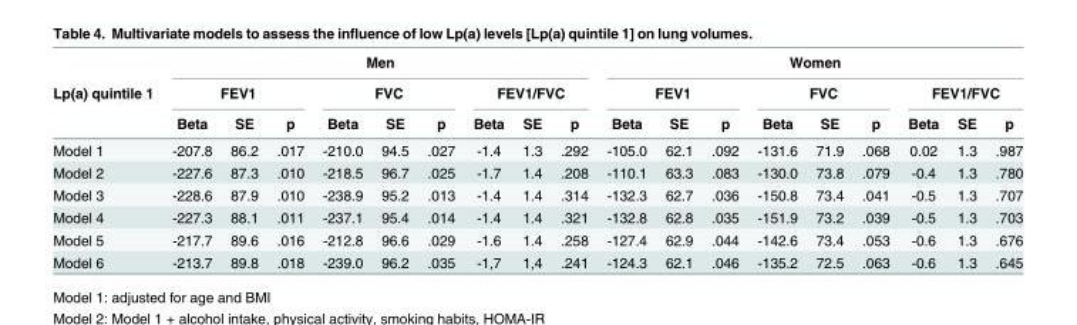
<table><thead><tr><td rowspan="3">Lp(a) quintile 1</td><td colspan="9">Men</td><td colspan="9">Women</td></tr><tr><td colspan="3">FEV1</td><td colspan="3">FVC</td><td colspan="3">FEV1/FVC</td><td colspan="3">FEV1</td><td colspan="3">FVC</td><td colspan="3">FEV1/FVC</td></tr><tr><td>Beta</td><td>SE</td><td>p</td><td>Beta</td><td>SE</td><td>p</td><td>Beta</td><td>SE</td><td>p</td><td>Beta</td><td>SE</td><td>p</td><td>Beta</td><td>SE</td><td>p</td><td>Beta</td><td>SE</td><td>p</td></tr></thead><tbody><tr><td>Model 1</td><td>-207.8</td><td>86.2</td><td>.017</td><td>-210.0</td><td>94.5</td><td>.027</td><td>-1.4</td><td>1.3</td><td>.292</td><td>-105.0</td><td>62.1</td><td>.092</td><td>-131.6</td><td>71.9</td><td>.068</td><td>0.02</td><td>1.3</td><td>.987</td></tr><tr><td>Model 2</td><td>-227.6</td><td>87.3</td><td>.010</td><td>-218.5</td><td>96.7</td><td>.025</td><td>-1.7</td><td>1.4</td><td>.208</td><td>-110.1</td><td>63.3</td><td>.083</td><td>-130.0</td><td>73.8</td><td>.079</td><td>-0.4</td><td>1.3</td><td>.780</td></tr><tr><td>Model 3</td><td>-228.6</td><td>87.9</td><td>.010</td><td>-238.9</td><td>95.2</td><td>.013</td><td>-1.4</td><td>1.4</td><td>.314</td><td>-132.3</td><td>62.7</td><td>.036</td><td>-150.8</td><td>73.4</td><td>.041</td><td>-0.5</td><td>1.3</td><td>.707</td></tr><tr><td>Model 4</td><td>-227.3</td><td>88.1</td><td>.011</td><td>-237.1</td><td>95.4</td><td>.014</td><td>-1.4</td><td>1.4</td><td>.321</td><td>-132.8</td><td>62.8</td><td>.035</td><td>-151.9</td><td>73.2</td><td>.039</td><td>-0.5</td><td>1.3</td><td>.703</td></tr><tr><td>Model 5</td><td>-217.7</td><td>89.6</td><td>.016</td><td>-212.8</td><td>96.6</td><td>.029</td><td>-1.6</td><td>1.4</td><td>.258</td><td>-127.4</td><td>62.9</td><td>.044</td><td>-142.6</td><td>73.4</td><td>.053</td><td>-0.6</td><td>1.3</td><td>.676</td></tr><tr><td>Model 6</td><td>-213.7</td><td>89.8</td><td>.018</td><td>-239.0</td><td>96.2</td><td>.035</td><td>-1,7</td><td>1,4</td><td>.241</td><td>-124.3</td><td>62.1</td><td>.046</td><td>-135.2</td><td>72.5</td><td>.063</td><td>-0.6</td><td>1.3</td><td>.645</td></tr></tbody></table>